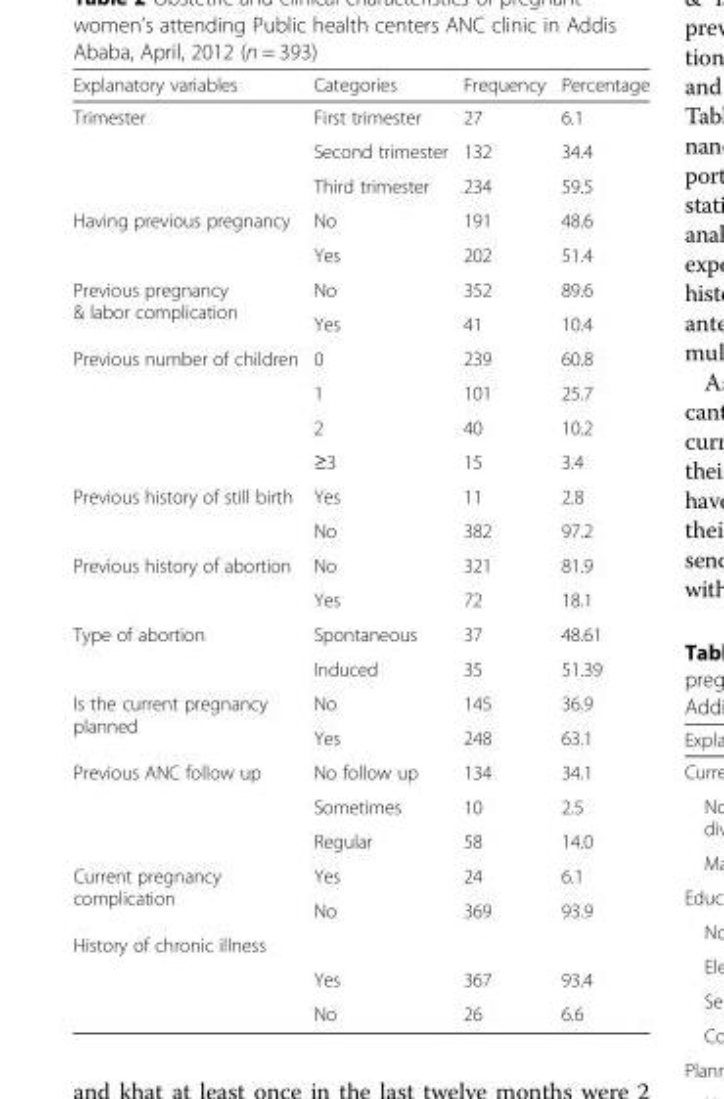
<table><thead><tr><td>Explanatory variables</td><td>Categories</td><td>Frequency</td><td>Percentage</td></tr></thead><tbody><tr><td rowspan="3">Trimester</td><td>First trimester</td><td>27</td><td>6.1</td></tr><tr><td>Second trimester</td><td>132</td><td>34.4</td></tr><tr><td>Third trimester</td><td>234</td><td>59.5</td></tr><tr><td rowspan="2">Having previous pregnancy</td><td>No</td><td>191</td><td>48.6</td></tr><tr><td>Yes</td><td>202</td><td>51.4</td></tr><tr><td rowspan="2">Previous pregnancy &amp; labor complication</td><td>No</td><td>352</td><td>89.6</td></tr><tr><td>Yes</td><td>41</td><td>10.4</td></tr><tr><td rowspan="4">Previous number of children</td><td>0</td><td>239</td><td>60.8</td></tr><tr><td>1</td><td>101</td><td>25.7</td></tr><tr><td>2</td><td>40</td><td>10.2</td></tr><tr><td>≥3</td><td>15</td><td>3.4</td></tr><tr><td rowspan="2">Previous history of still birth</td><td>Yes</td><td>11</td><td>2.8</td></tr><tr><td>No</td><td>382</td><td>97.2</td></tr><tr><td rowspan="2">Previous history of abortion</td><td>No</td><td>321</td><td>81.9</td></tr><tr><td>Yes</td><td>72</td><td>18.1</td></tr><tr><td rowspan="2">Type of abortion</td><td>Spontaneous</td><td>37</td><td>48.61</td></tr><tr><td>Induced</td><td>35</td><td>51.39</td></tr><tr><td rowspan="2">Is the current pregnancy planned</td><td>No</td><td>145</td><td>36.9</td></tr><tr><td>Yes</td><td>248</td><td>63.1</td></tr><tr><td rowspan="3">Previous ANC follow up</td><td>No follow up</td><td>134</td><td>34.1</td></tr><tr><td>Sometimes</td><td>10</td><td>2.5</td></tr><tr><td>Regular</td><td>58</td><td>14.0</td></tr><tr><td rowspan="2">Current pregnancy complication</td><td>Yes</td><td>24</td><td>6.1</td></tr><tr><td>No</td><td>369</td><td>93.9</td></tr><tr><td colspan="4">History of chronic illness</td></tr><tr><td rowspan="2"></td><td>Yes</td><td>367</td><td>93.4</td></tr><tr><td>No</td><td>26</td><td>6.6</td></tr></tbody></table>